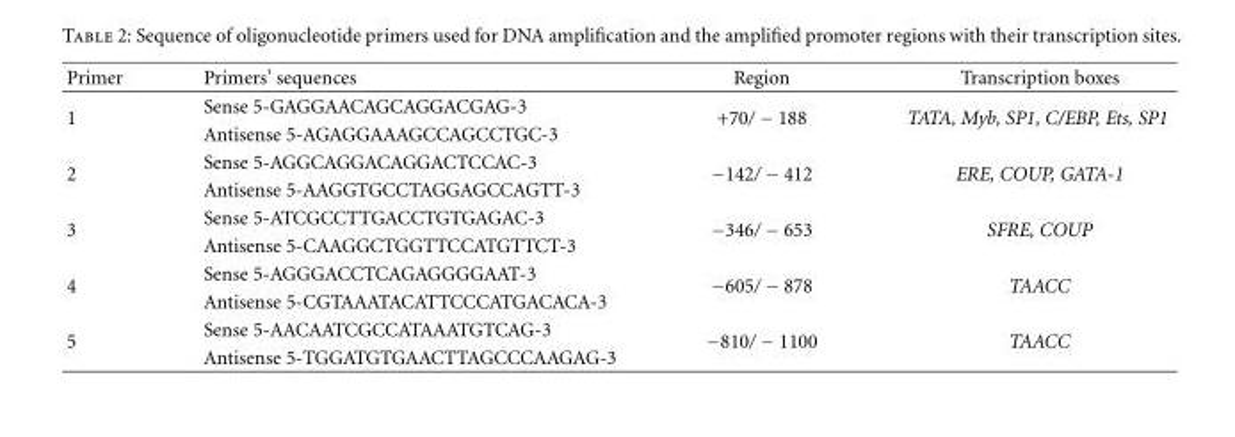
<table><thead><tr><td>Primer</td><td>Primers’ sequences</td><td>Region</td><td>Transcription boxes</td></tr></thead><tbody><tr><td rowspan="2">1</td><td>Sense 5-GAGGAACAGCAGGACGAG-3</td><td rowspan="2">+70/ − 188</td><td rowspan="2">TATA, Myb, SP1, C/EBP, Ets, SP1</td></tr><tr><td>Antisense 5-AGAGGAAAGCCAGCCTGC-3</td></tr><tr><td rowspan="2">2</td><td>Sense 5-AGGCAGGACAGGACTCCAC-3</td><td rowspan="2">−142/ − 412</td><td rowspan="2">ERE, COUP, GATA-1</td></tr><tr><td>Antisense 5-AAGGTGCCTAGGAGCCAGTT-3</td></tr><tr><td rowspan="2">3</td><td>Sense 5-ATCGCCTTGACCTGTGAGAC-3</td><td rowspan="2">−346/ − 653</td><td rowspan="2">SFRE, COUP</td></tr><tr><td>Antisense 5-CAAGGCTGGTTCCATGTTCT-3</td></tr><tr><td rowspan="2">4</td><td>Sense 5-AGGGACCTCAGAGGGGAAT-3</td><td rowspan="2">−605/ − 878</td><td rowspan="2">TAACC</td></tr><tr><td>Antisense 5-CGTAAATACATTCCCATGACACA-3</td></tr><tr><td rowspan="2">5</td><td>Sense 5-AACAATCGCCATAAATGTCAG-3</td><td rowspan="2">−810/ − 1100</td><td rowspan="2">TAACC</td></tr><tr><td>Antisense 5-TGGATGTGAACTTAGCCCAAGAG-3</td></tr></tbody></table>